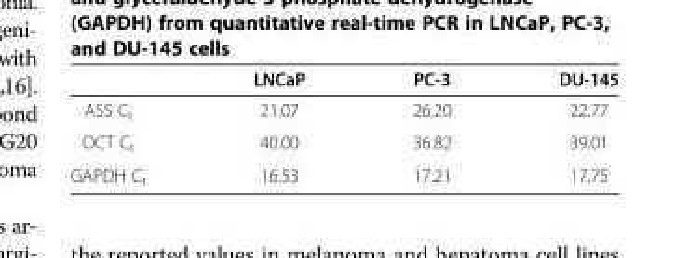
<table><thead><tr><td></td><td>LNCaP</td><td>PC-3</td><td>DU-145</td></tr></thead><tbody><tr><td>ASS C<sub>t</sub></td><td>21.07</td><td>26.20</td><td>22.77</td></tr><tr><td>OCT C<sub>t</sub></td><td>40.00</td><td>36.82</td><td>39.01</td></tr><tr><td>GAPDH C<sub>t</sub></td><td>16.53</td><td>17.21</td><td>17.75</td></tr></tbody></table>